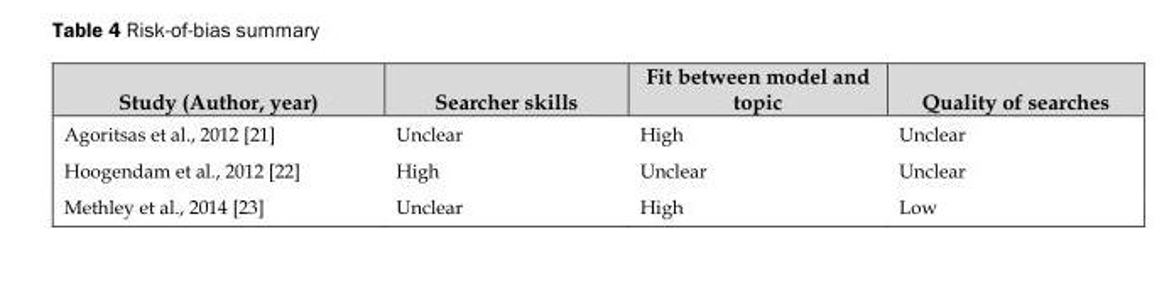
<table><thead><tr><td>Study (Author, year)</td><td>Searcher skills</td><td>Fit between model and topic</td><td>Quality of searches</td></tr></thead><tbody><tr><td>Agoritsas et al., 2012 [21]</td><td>Unclear</td><td>High</td><td>Unclear</td></tr><tr><td>Hoogendam et al., 2012 [22]</td><td>High</td><td>Unclear</td><td>Unclear</td></tr><tr><td>Methley et al., 2014 [23]</td><td>Unclear</td><td>High</td><td>Low</td></tr></tbody></table>